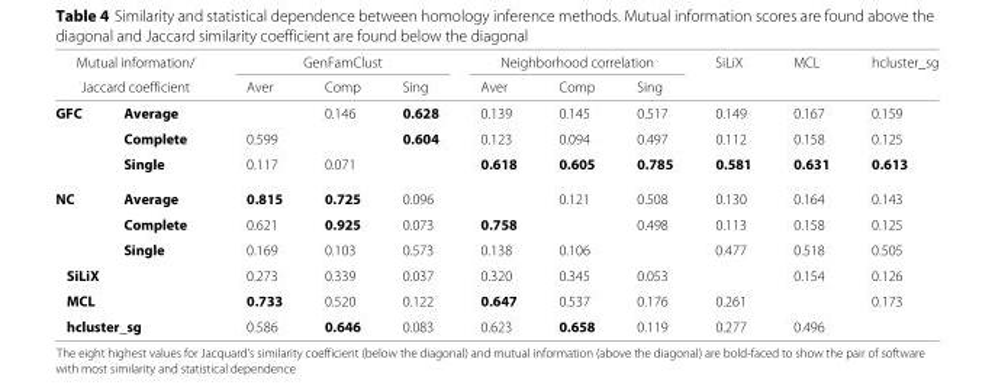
<table><thead><tr><td rowspan="2" colspan="2">Mutual information/ Jaccard coefficient</td><td colspan="3">GenFamClust</td><td colspan="3">Neighborhood correlation</td><td rowspan="3">SiLiX 0.149</td><td rowspan="3">MCL 0.167</td><td rowspan="3">hcluster_sg 0.159</td></tr><tr><td rowspan="2">Aver</td><td rowspan="2">Comp 0.146</td><td rowspan="2">Sing 0.628</td><td rowspan="2">Aver 0.139</td><td rowspan="2">Comp 0.145</td><td rowspan="2">Sing 0.517</td></tr><tr><td>GFC</td><td>Average</td></tr></thead><tbody><tr><td></td><td>Complete</td><td>0.599</td><td></td><td>0.604</td><td>0.123</td><td>0.094</td><td>0.497</td><td>0.112</td><td>0.158</td><td>0.125</td></tr><tr><td></td><td>Single</td><td>0.117</td><td>0.071</td><td></td><td>0.618</td><td>0.605</td><td>0.785</td><td>0.581</td><td>0.631</td><td>0.613</td></tr><tr><td rowspan="3">NC</td><td>Average</td><td>0.815</td><td>0.725</td><td>0.096</td><td></td><td>0.121</td><td>0.508</td><td>0.130</td><td>0.164</td><td>0.143</td></tr><tr><td>Complete</td><td>0.621</td><td>0.925</td><td>0.073</td><td>0.758</td><td></td><td>0.498</td><td>0.113</td><td>0.158</td><td>0.125</td></tr><tr><td>Single</td><td>0.169</td><td>0.103</td><td>0.573</td><td>0.138</td><td>0.106</td><td></td><td>0.477</td><td>0.518</td><td>0.505</td></tr><tr><td colspan="2">SiLiX</td><td>0.273</td><td>0.339</td><td>0.037</td><td>0.320</td><td>0.345</td><td>0.053</td><td></td><td>0.154</td><td>0.126</td></tr><tr><td colspan="2">MCL</td><td>0.733</td><td>0.520</td><td>0.122</td><td>0.647</td><td>0.537</td><td>0.176</td><td>0.261</td><td></td><td>0.173</td></tr><tr><td colspan="2">hcluster_sg</td><td>0.586</td><td>0.646</td><td>0.083</td><td>0.623</td><td>0.658</td><td>0.119</td><td>0.277</td><td>0.496</td><td></td></tr></tbody></table>